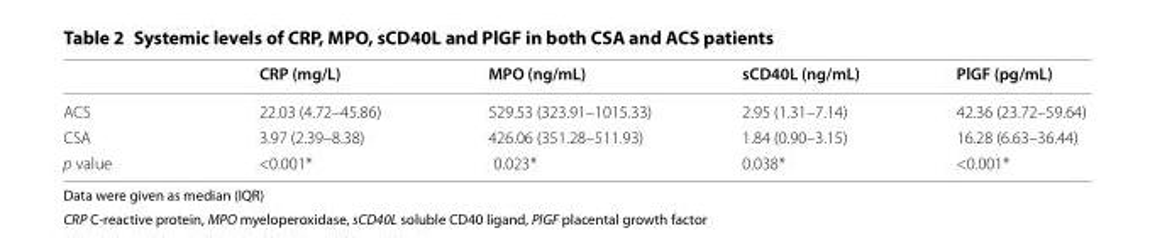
<table><thead><tr><td></td><td>CRP (mg/L)</td><td>MPO (ng/mL)</td><td>sCD40L (ng/mL)</td><td>PlGF (pg/mL)</td></tr></thead><tbody><tr><td>ACS</td><td>22.03 (4.72–45.86)</td><td>529.53 (323.91–1015.33)</td><td>2.95 (1.31–7.14)</td><td>42.36 (23.72–59.64)</td></tr><tr><td>CSA</td><td>3.97 (2.39–8.38)</td><td>426.06 (351.28–511.93)</td><td>1.84 (0.90–3.15)</td><td>16.28 (6.63–36.44)</td></tr><tr><td>p value</td><td>&lt;0.001*</td><td>0.023*</td><td>0.038*</td><td>&lt;0.001*</td></tr></tbody></table>